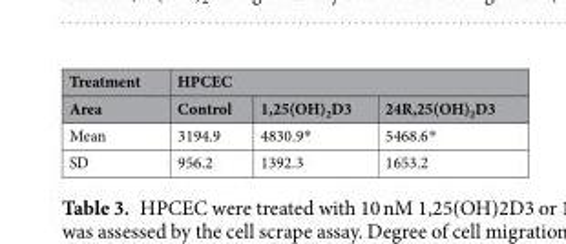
<table><thead><tr><td rowspan="2">Treatment Area</td><td colspan="3">HPCEC</td></tr><tr><td>Control</td><td>1,25(OH)<sub>2</sub>D3</td><td>24R,25(OH)<sub>2</sub>D3</td></tr></thead><tbody><tr><td>Mean</td><td>3194.9</td><td>4830.9*</td><td>5468.6*</td></tr><tr><td>SD</td><td>956.2</td><td>1392.3</td><td>1653.2</td></tr></tbody></table>